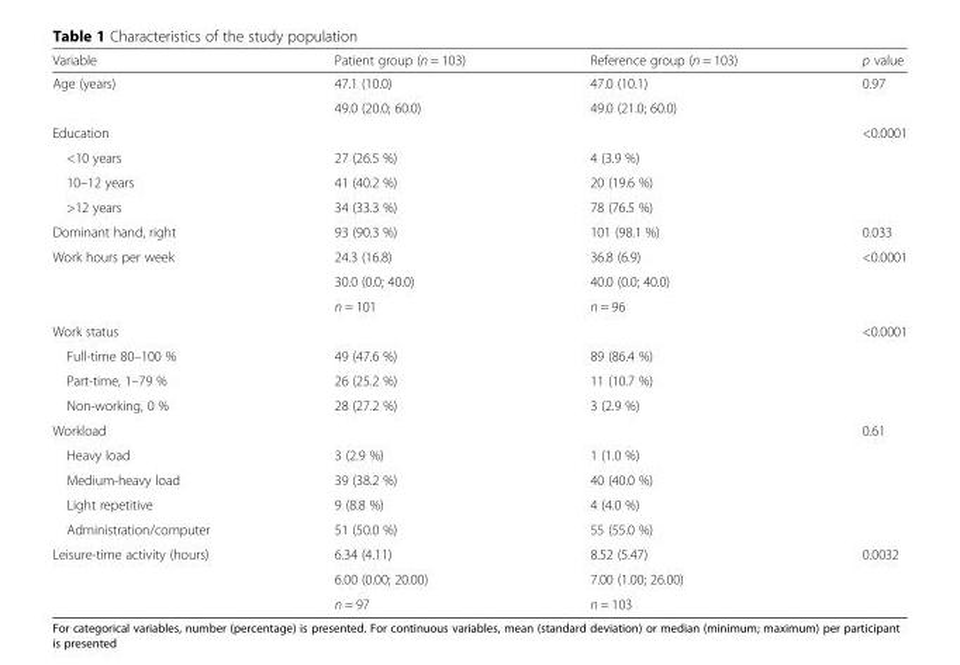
<table><thead><tr><td>Variable</td><td>Patient group (n = 103)</td><td>Reference group (n = 103)</td><td>p value</td></tr></thead><tbody><tr><td rowspan="2">Age (years)</td><td>47.1 (10.0)</td><td>47.0 (10.1)</td><td rowspan="2">0.97</td></tr><tr><td>49.0 (20.0; 60.0)</td><td>49.0 (21.0; 60.0)</td></tr><tr><td>Education</td><td></td><td></td><td>&lt;0.0001</td></tr><tr><td>&lt;10 years</td><td>27 (26.5 %)</td><td>4 (3.9 %)</td><td></td></tr><tr><td>10–12 years</td><td>41 (40.2 %)</td><td>20 (19.6 %)</td><td></td></tr><tr><td>&gt;12 years</td><td>34 (33.3 %)</td><td>78 (76.5 %)</td><td></td></tr><tr><td>Dominant hand, right</td><td>93 (90.3 %)</td><td>101 (98.1 %)</td><td>0.033</td></tr><tr><td rowspan="3">Work hours per week</td><td>24.3 (16.8)</td><td>36.8 (6.9)</td><td rowspan="3">&lt;0.0001</td></tr><tr><td>30.0 (0.0; 40.0)</td><td>40.0 (0.0; 40.0)</td></tr><tr><td>n = 101</td><td>n = 96</td></tr><tr><td>Work status</td><td></td><td></td><td>&lt;0.0001</td></tr><tr><td>Full-time 80–100 %</td><td>49 (47.6 %)</td><td>89 (86.4 %)</td><td></td></tr><tr><td>Part-time, 1–79 %</td><td>26 (25.2 %)</td><td>11 (10.7 %)</td><td></td></tr><tr><td>Non-working, 0 %</td><td>28 (27.2 %)</td><td>3 (2.9 %)</td><td></td></tr><tr><td>Workload</td><td></td><td></td><td>0.61</td></tr><tr><td>Heavy load</td><td>3 (2.9 %)</td><td>1 (1.0 %)</td><td></td></tr><tr><td>Medium-heavy load</td><td>39 (38.2 %)</td><td>40 (40.0 %)</td><td></td></tr><tr><td>Light repetitive</td><td>9 (8.8 %)</td><td>4 (4.0 %)</td><td></td></tr><tr><td>Administration/computer</td><td>51 (50.0 %)</td><td>55 (55.0 %)</td><td></td></tr><tr><td rowspan="3">Leisure-time activity (hours)</td><td>6.34 (4.11)</td><td>8.52 (5.47)</td><td rowspan="3">0.0032</td></tr><tr><td>6.00 (0.00; 20.00)</td><td>7.00 (1.00; 26.00)</td></tr><tr><td>n = 97</td><td>n = 103</td></tr></tbody></table>